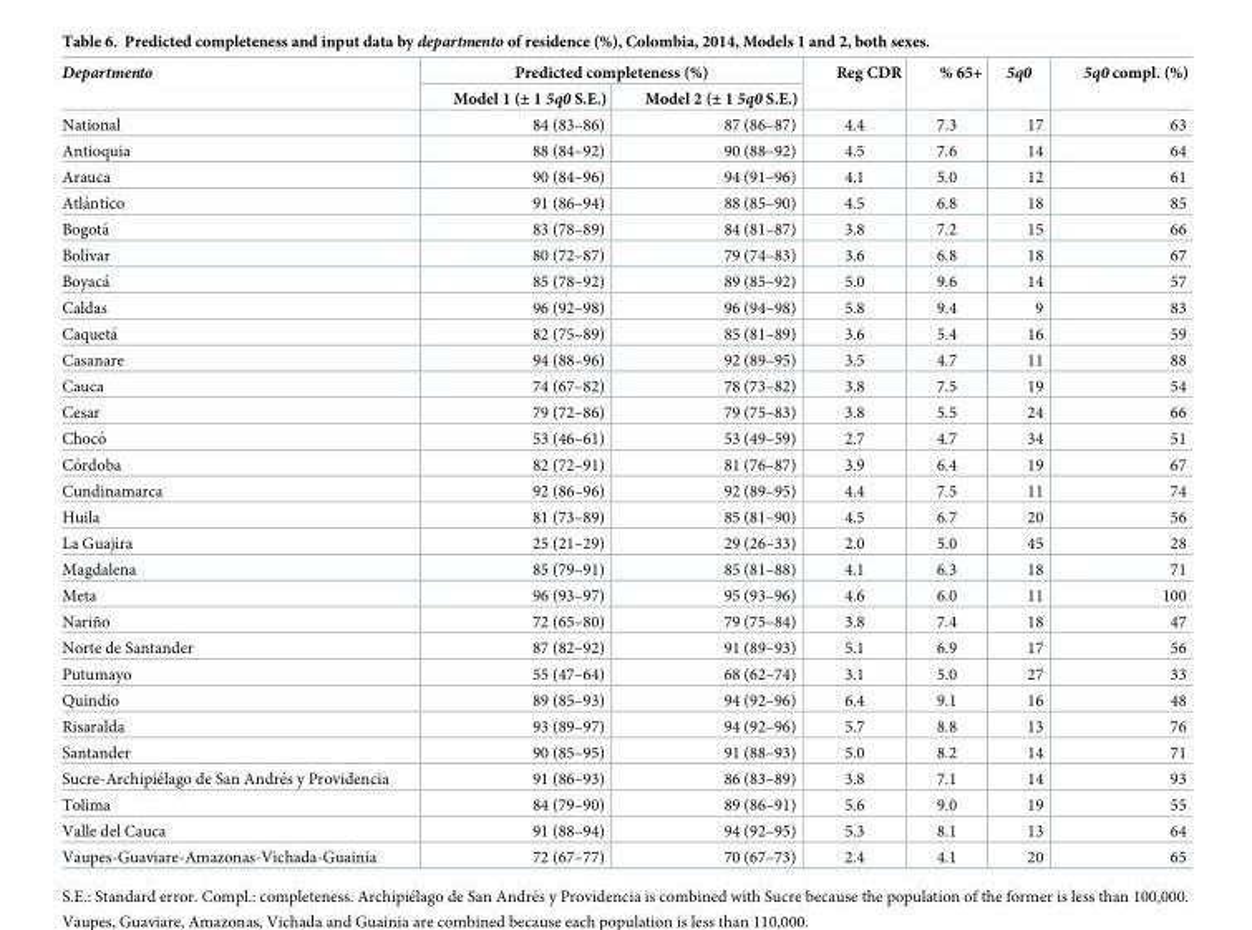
<table><thead><tr><td rowspan="2">Departmento</td><td colspan="2">Predicted completeness (%)</td><td rowspan="2">Reg CDR</td><td rowspan="2">% 65+</td><td rowspan="2">5q0</td><td rowspan="2">5q0 compl. (%)</td></tr><tr><td>Model 1 (± 1 5q0 S.E.)</td><td>Model 2 (± 1 5q0 S.E.)</td></tr></thead><tbody><tr><td>National</td><td>84 (83–86)</td><td>87 (86–87)</td><td>4.4</td><td>7.3</td><td>17</td><td>63</td></tr><tr><td>Antioquia</td><td>88 (84–92)</td><td>90 (88–92)</td><td>4.5</td><td>7.6</td><td>14</td><td>64</td></tr><tr><td>Arauca</td><td>90 (84–96)</td><td>94 (91–96)</td><td>4.1</td><td>5.0</td><td>12</td><td>61</td></tr><tr><td>Atla´ntico</td><td>91 (86–94)</td><td>88 (85–90)</td><td>4.5</td><td>6.8</td><td>18</td><td>85</td></tr><tr><td>Bogota´</td><td>83 (78–89)</td><td>84 (81–87)</td><td>3.8</td><td>7.2</td><td>15</td><td>66</td></tr><tr><td>Bolı´var</td><td>80 (72–87)</td><td>79 (74–83)</td><td>3.6</td><td>6.8</td><td>18</td><td>67</td></tr><tr><td>Boyaca´</td><td>85 (78–92)</td><td>89 (85–92)</td><td>5.0</td><td>9.6</td><td>14</td><td>57</td></tr><tr><td>Caldas</td><td>96 (92–98)</td><td>96 (94–98)</td><td>5.8</td><td>9.4</td><td>9</td><td>83</td></tr><tr><td>Caqueta´</td><td>82 (75–89)</td><td>85 (81–89)</td><td>3.6</td><td>5.4</td><td>16</td><td>59</td></tr><tr><td>Casanare</td><td>94 (88–96)</td><td>92 (89–95)</td><td>3.5</td><td>4.7</td><td>11</td><td>88</td></tr><tr><td>Cauca</td><td>74 (67–82)</td><td>78 (73–82)</td><td>3.8</td><td>7.5</td><td>19</td><td>54</td></tr><tr><td>Cesar</td><td>79 (72–86)</td><td>79 (75–83)</td><td>3.8</td><td>5.5</td><td>24</td><td>66</td></tr><tr><td>Choco´</td><td>53 (46–61)</td><td>53 (49–59)</td><td>2.7</td><td>4.7</td><td>34</td><td>51</td></tr><tr><td>Co´rdoba</td><td>82 (72–91)</td><td>81 (76–87)</td><td>3.9</td><td>6.4</td><td>19</td><td>67</td></tr><tr><td>Cundinamarca</td><td>92 (86–96)</td><td>92 (89–95)</td><td>4.4</td><td>7.5</td><td>11</td><td>74</td></tr><tr><td>Huila</td><td>81 (73–89)</td><td>85 (81–90)</td><td>4.5</td><td>6.7</td><td>20</td><td>56</td></tr><tr><td>La Guajira</td><td>25 (21–29)</td><td>29 (26–33)</td><td>2.0</td><td>5.0</td><td>45</td><td>28</td></tr><tr><td>Magdalena</td><td>85 (79–91)</td><td>85 (81–88)</td><td>4.1</td><td>6.3</td><td>18</td><td>71</td></tr><tr><td>Meta</td><td>96 (93–97)</td><td>95 (93–96)</td><td>4.6</td><td>6.0</td><td>11</td><td>100</td></tr><tr><td>Nariño</td><td>72 (65–80)</td><td>79 (75–84)</td><td>3.8</td><td>7.4</td><td>18</td><td>47</td></tr><tr><td>Norte de Santander</td><td>87 (82–92)</td><td>91 (89–93)</td><td>5.1</td><td>6.9</td><td>17</td><td>56</td></tr><tr><td>Putumayo</td><td>55 (47–64)</td><td>68 (62–74)</td><td>3.1</td><td>5.0</td><td>27</td><td>33</td></tr><tr><td>Quindı´o</td><td>89 (85–93)</td><td>94 (92–96)</td><td>6.4</td><td>9.1</td><td>16</td><td>48</td></tr><tr><td>Risaralda</td><td>93 (89–97)</td><td>94 (92–96)</td><td>5.7</td><td>8.8</td><td>13</td><td>76</td></tr><tr><td>Santander</td><td>90 (85–95)</td><td>91 (88–93)</td><td>5.0</td><td>8.2</td><td>14</td><td>71</td></tr><tr><td>Sucre-Archipie´lago de San Andre´s y Providencia</td><td>91 (86–93)</td><td>86 (83–89)</td><td>3.8</td><td>7.1</td><td>14</td><td>93</td></tr><tr><td>Tolima</td><td>84 (79–90)</td><td>89 (86–91)</td><td>5.6</td><td>9.0</td><td>19</td><td>55</td></tr><tr><td>Valle del Cauca</td><td>91 (88–94)</td><td>94 (92–95)</td><td>5.3</td><td>8.1</td><td>13</td><td>64</td></tr><tr><td>Vaupes-Guaviare-Amazonas-Vichada-Guainia</td><td>72 (67–77)</td><td>70 (67–73)</td><td>2.4</td><td>4.1</td><td>20</td><td>65</td></tr></tbody></table>